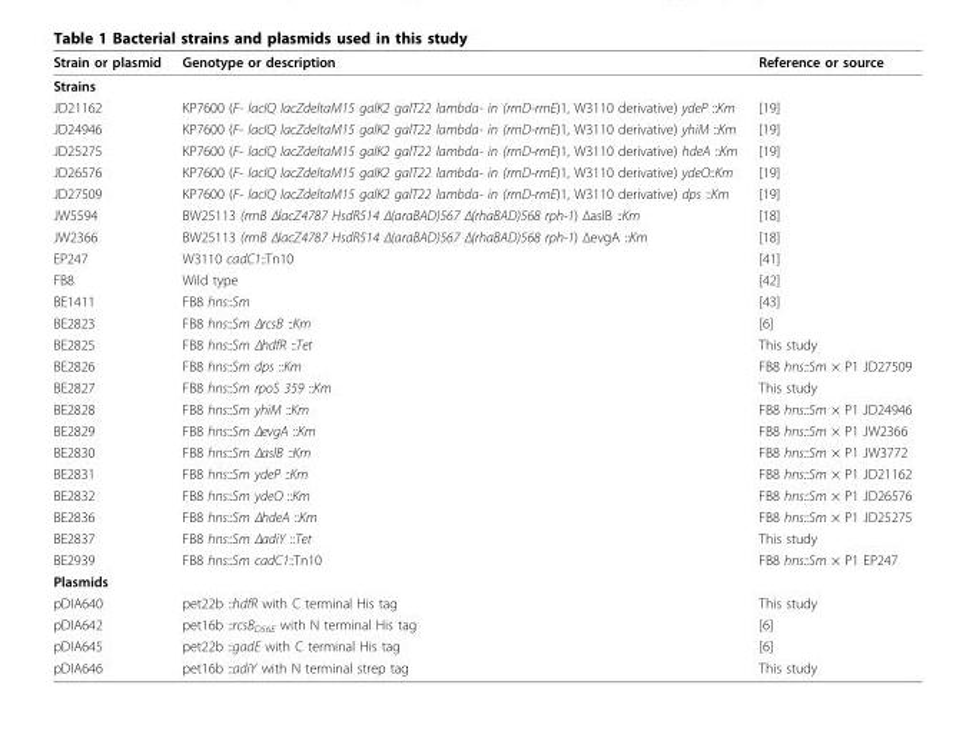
<table><thead><tr><td>Strain or plasmid</td><td>Genotype or description</td><td>Reference or source</td></tr></thead><tbody><tr><td colspan="3">Strains</td></tr><tr><td>JD21162</td><td>KP7600 (F- lacIQ lacZdeltaM15 galK2 galT22 lambda- in (rrnD-rrnE)1, W3110 derivative) ydeP ::Km</td><td>[19]</td></tr><tr><td>JD24946</td><td>KP7600 (F- lacIQ lacZdeltaM15 galK2 galT22 lambda- in (rrnD-rrnE)1, W3110 derivative) yhiM ::Km</td><td>[19]</td></tr><tr><td>JD25275</td><td>KP7600 (F- lacIQ lacZdeltaM15 galK2 galT22 lambda- in (rrnD-rrnE)1, W3110 derivative) hdeA ::Km</td><td>[19]</td></tr><tr><td>JD26576</td><td>KP7600 (F- lacIQ lacZdeltaM15 galK2 galT22 lambda- in (rrnD-rrnE)1, W3110 derivative) ydeO::Km</td><td>[19]</td></tr><tr><td>JD27509</td><td>KP7600 (F- lacIQ lacZdeltaM15 galK2 galT22 lambda- in (rrnD-rrnE)1, W3110 derivative) dps ::Km</td><td>[19]</td></tr><tr><td>JW5594</td><td>BW25113 (rrnB ΔlacZ4787 HsdR514 Δ(araBAD)567 Δ(rhaBAD)568 rph-1) ΔaslB ::Km</td><td>[18]</td></tr><tr><td>JW2366</td><td>BW25113 (rrnB ΔlacZ4787 HsdR514 Δ(araBAD)567 Δ(rhaBAD)568 rph-1) ΔevgA ::Km</td><td>[18]</td></tr><tr><td>EP247</td><td>W3110 cadC1::Tn10</td><td>[41]</td></tr><tr><td>FB8</td><td>Wild type</td><td>[42]</td></tr><tr><td>BE1411</td><td>FB8 hns::Sm</td><td>[43]</td></tr><tr><td>BE2823</td><td>FB8 hns::Sm ΔrcsB ::Km</td><td>[6]</td></tr><tr><td>BE2825</td><td>FB8 hns::Sm ΔhdfR ::Tet</td><td>This study</td></tr><tr><td>BE2826</td><td>FB8 hns::Sm dps ::Km</td><td>FB8 hns::Sm × P1 JD27509</td></tr><tr><td>BE2827</td><td>FB8 hns::Sm rpoS 359 ::Km</td><td>This study</td></tr><tr><td>BE2828</td><td>FB8 hns::Sm yhiM ::Km</td><td>FB8 hns::Sm × P1 JD24946</td></tr><tr><td>BE2829</td><td>FB8 hns::Sm ΔevgA ::Km</td><td>FB8 hns::Sm × P1 JW2366</td></tr><tr><td>BE2830</td><td>FB8 hns::Sm ΔaslB ::Km</td><td>FB8 hns::Sm × P1 JW3772</td></tr><tr><td>BE2831</td><td>FB8 hns::Sm ydeP ::Km</td><td>FB8 hns::Sm × P1 JD21162</td></tr><tr><td>BE2832</td><td>FB8 hns::Sm ydeO ::Km</td><td>FB8 hns::Sm × P1 JD26576</td></tr><tr><td>BE2836</td><td>FB8 hns::Sm ΔhdeA ::Km</td><td>FB8 hns::Sm × P1 JD25275</td></tr><tr><td>BE2837</td><td>FB8 hns::Sm ΔadiY ::Tet</td><td>This study</td></tr><tr><td>BE2939</td><td>FB8 hns::Sm cadC1::Tn10</td><td>FB8 hns::Sm × P1 EP247</td></tr><tr><td colspan="3">Plasmids</td></tr><tr><td>pDIA640</td><td>pet22b ::hdfR with C terminal His tag</td><td>This study</td></tr><tr><td>pDIA642</td><td>pet16b ::rcsB<sub>D56E</sub> with N terminal His tag</td><td>[6]</td></tr><tr><td>pDIA645</td><td>pet22b ::gadE with C terminal His tag</td><td>[6]</td></tr><tr><td>pDIA646</td><td>pet16b ::adiY with N terminal strep tag</td><td>This study</td></tr></tbody></table>